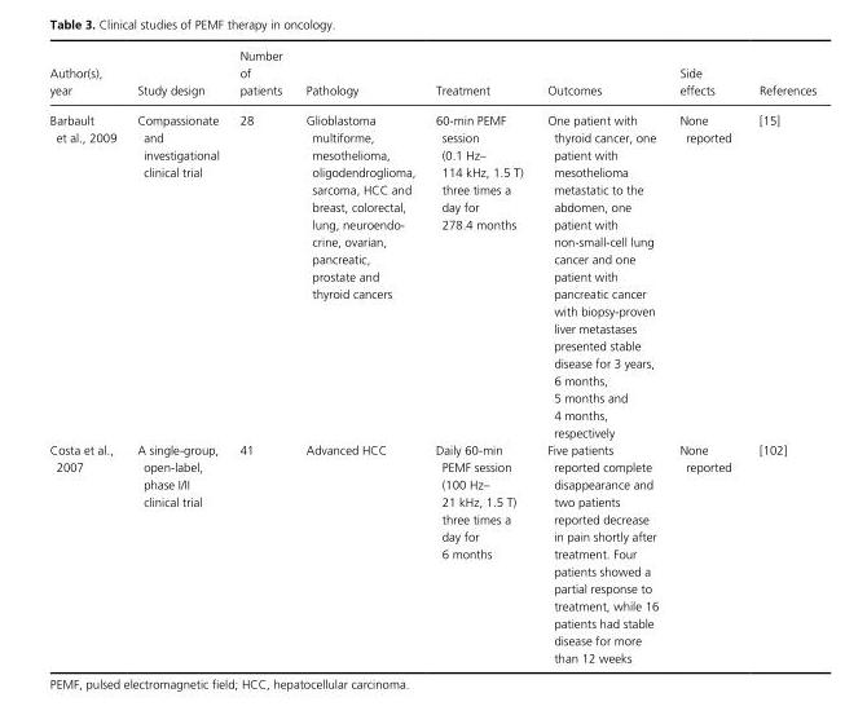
<table><thead><tr><td>Author(s), year</td><td>Study design</td><td>Number of patients</td><td>Pathology</td><td>Treatment</td><td>Outcomes</td><td>Side effects</td><td>References</td></tr></thead><tbody><tr><td>Barbault et al., 2009</td><td>Compassionate and investigational clinical trial</td><td>28</td><td>Glioblastoma multiforme, mesothelioma, oligodendroglioma, sarcoma, HCC and breast, colorectal, lung, neuroendo- crine, ovarian, pancreatic, prostate and thyroid cancers</td><td>60- min PEMF session (0.1 Hz– 114 kHz, 1.5 T) three times a day for 278.4 months</td><td>One patient with thyroid cancer, one patient with mesothelioma metastatic to the abdomen, one patient with non- small- cell lung cancer and one patient with pancreatic cancer with biopsy- proven liver metastases presented stable disease for 3 years, 6 months, 5 months and 4 months, respectively</td><td>None reported</td><td>[15]</td></tr><tr><td>Costa et al., 2007</td><td>A single- group, open- label, phase I/II clinical trial</td><td>41</td><td>Advanced HCC</td><td>Daily 60- min PEMF session (100 Hz– 21 kHz, 1.5 T) three times a day for 6 months</td><td>Five patients reported complete disappearance and two patients reported decrease in pain shortly after treatment. Four patients showed a partial response to treatment, while 16 patients had stable disease for more than 12 weeks</td><td>None reported</td><td>[102]</td></tr></tbody></table>